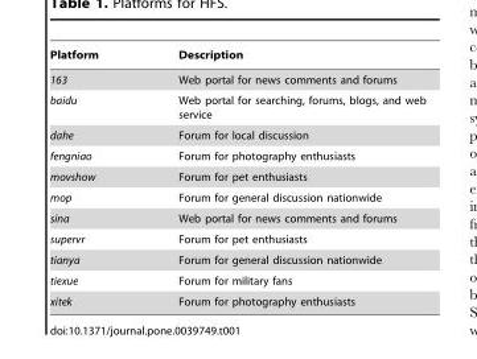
<table><thead><tr><td>Platform</td><td>Description</td></tr></thead><tbody><tr><td>163</td><td>Web portal for news comments and forums</td></tr><tr><td>baidu</td><td>Web portal for searching, forums, blogs, and web service</td></tr><tr><td>dahe</td><td>Forum for local discussion</td></tr><tr><td>fengniao</td><td>Forum for photography enthusiasts</td></tr><tr><td>movshow</td><td>Forum for pet enthusiasts</td></tr><tr><td>mop</td><td>Forum for general discussion nationwide</td></tr><tr><td>sina</td><td>Web portal for news comments and forums</td></tr><tr><td>supervr</td><td>Forum for pet enthusiasts</td></tr><tr><td>tianya</td><td>Forum for general discussion nationwide</td></tr><tr><td>tiexue</td><td>Forum for military fans</td></tr><tr><td>xitek</td><td>Forum for photography enthusiasts</td></tr></tbody></table>